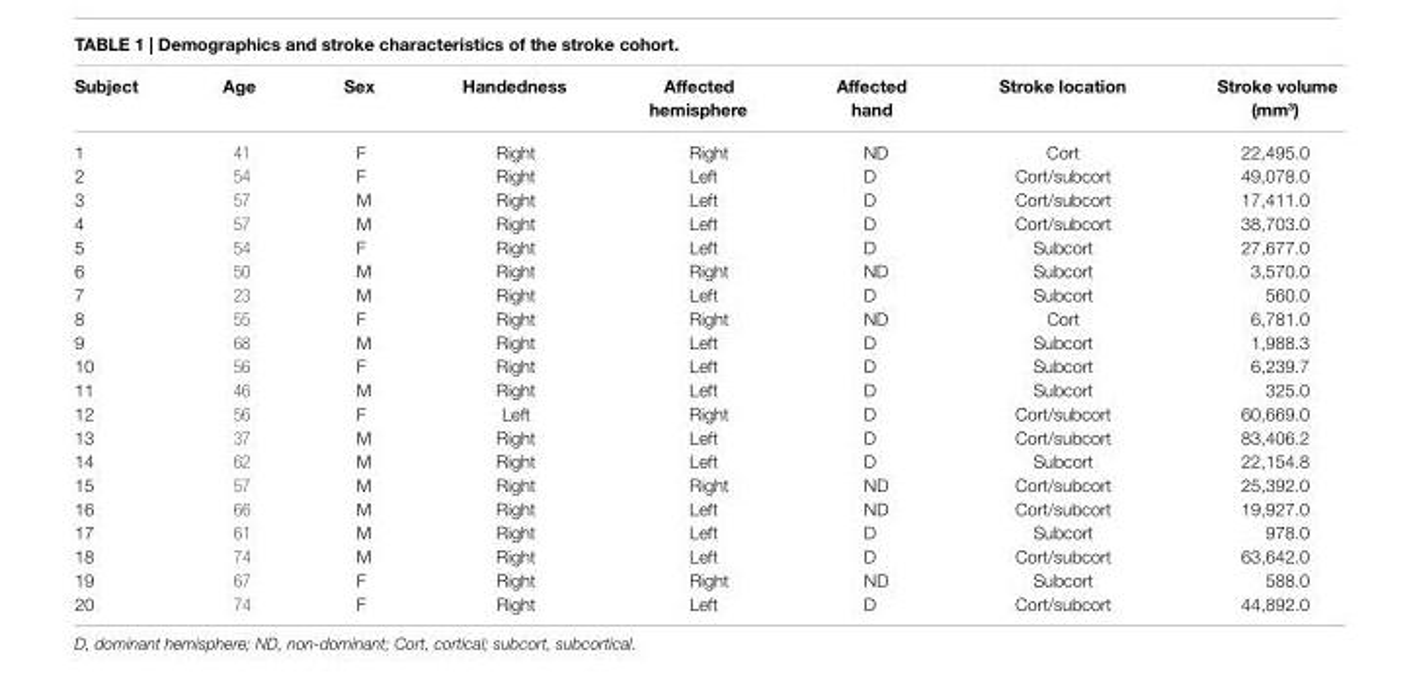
<table><thead><tr><td>subject</td><td>age</td><td>sex</td><td>handedness</td><td>affected hemisphere</td><td>affected hand</td><td>stroke location</td><td>stroke volume (mm<sup>3</sup>)</td></tr></thead><tbody><tr><td>1</td><td>41</td><td>F</td><td>Right</td><td>Right</td><td>ND</td><td>Cort</td><td>22,495.0</td></tr><tr><td>2</td><td>54</td><td>F</td><td>Right</td><td>Left</td><td>D</td><td>Cort/subcort</td><td>49,078.0</td></tr><tr><td>3</td><td>57</td><td>M</td><td>Right</td><td>Left</td><td>D</td><td>Cort/subcort</td><td>17,411.0</td></tr><tr><td>4</td><td>57</td><td>M</td><td>Right</td><td>Left</td><td>D</td><td>Cort/subcort</td><td>38,703.0</td></tr><tr><td>5</td><td>54</td><td>F</td><td>Right</td><td>Left</td><td>D</td><td>Subcort</td><td>27,677.0</td></tr><tr><td>6</td><td>50</td><td>M</td><td>Right</td><td>Right</td><td>ND</td><td>Subcort</td><td>3,570.0</td></tr><tr><td>7</td><td>23</td><td>M</td><td>Right</td><td>Left</td><td>D</td><td>Subcort</td><td>560.0</td></tr><tr><td>8</td><td>55</td><td>F</td><td>Right</td><td>Right</td><td>ND</td><td>Cort</td><td>6,781.0</td></tr><tr><td>9</td><td>68</td><td>M</td><td>Right</td><td>Left</td><td>D</td><td>Subcort</td><td>1,988.3</td></tr><tr><td>10</td><td>56</td><td>F</td><td>Right</td><td>Left</td><td>D</td><td>Subcort</td><td>6,239.7</td></tr><tr><td>11</td><td>46</td><td>M</td><td>Right</td><td>Left</td><td>D</td><td>Subcort</td><td>325.0</td></tr><tr><td>12</td><td>56</td><td>F</td><td>Left</td><td>Right</td><td>D</td><td>Cort/subcort</td><td>60,669.0</td></tr><tr><td>13</td><td>37</td><td>M</td><td>Right</td><td>Left</td><td>D</td><td>Cort/subcort</td><td>83,406.2</td></tr><tr><td>14</td><td>62</td><td>M</td><td>Right</td><td>Left</td><td>D</td><td>Subcort</td><td>22,154.8</td></tr><tr><td>15</td><td>57</td><td>M</td><td>Right</td><td>Right</td><td>ND</td><td>Cort/subcort</td><td>25,392.0</td></tr><tr><td>16</td><td>66</td><td>M</td><td>Right</td><td>Left</td><td>ND</td><td>Cort/subcort</td><td>19,927.0</td></tr><tr><td>17</td><td>61</td><td>M</td><td>Right</td><td>Left</td><td>D</td><td>Subcort</td><td>978.0</td></tr><tr><td>18</td><td>74</td><td>M</td><td>Right</td><td>Left</td><td>D</td><td>Cort/subcort</td><td>63,642.0</td></tr><tr><td>19</td><td>67</td><td>F</td><td>Right</td><td>Right</td><td>ND</td><td>Subcort</td><td>588.0</td></tr><tr><td>20</td><td>74</td><td>F</td><td>Right</td><td>Left</td><td>D</td><td>Cort/subcort</td><td>44,892.0</td></tr></tbody></table>